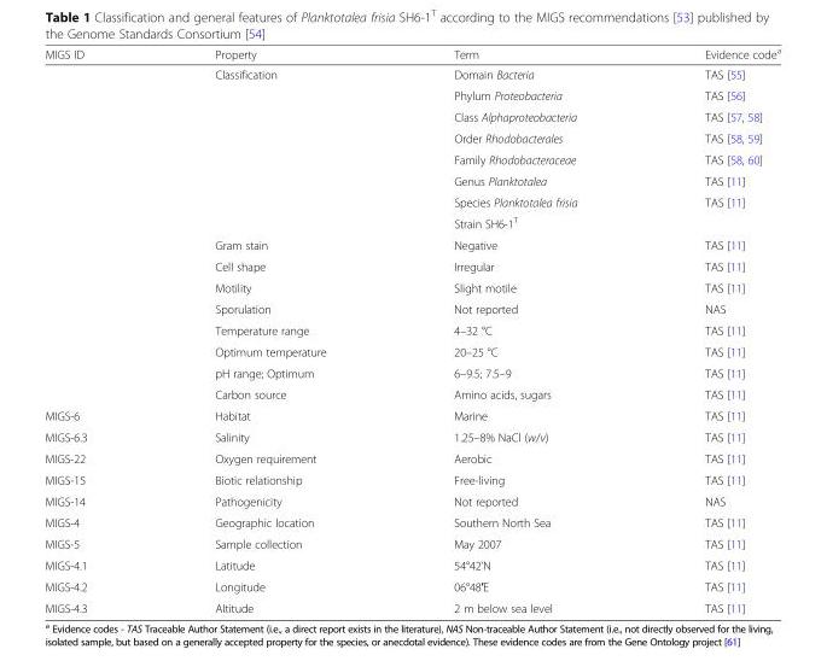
<table><thead><tr><td>MIGS ID</td><td>Property</td><td>Term</td><td>Evidence code<sup>a</sup></td></tr></thead><tbody><tr><td></td><td>Classification</td><td>Domain Bacteria</td><td>TAS [55]</td></tr><tr><td></td><td></td><td>Phylum Proteobacteria</td><td>TAS [56]</td></tr><tr><td></td><td></td><td>Class Alphaproteobacteria</td><td>TAS [57, 58]</td></tr><tr><td></td><td></td><td>Order Rhodobacterales</td><td>TAS [58, 59]</td></tr><tr><td></td><td></td><td>Family Rhodobacteraceae</td><td>TAS [58, 60]</td></tr><tr><td></td><td></td><td>Genus Planktotalea</td><td>TAS [11]</td></tr><tr><td></td><td></td><td>Species Planktotalea frisia</td><td>TAS [11]</td></tr><tr><td></td><td></td><td>Strain SH6-1<sup>T</sup></td><td></td></tr><tr><td></td><td>Gram stain</td><td>Negative</td><td>TAS [11]</td></tr><tr><td></td><td>Cell shape</td><td>Irregular</td><td>TAS [11]</td></tr><tr><td></td><td>Motility</td><td>Slight motile</td><td>TAS [11]</td></tr><tr><td></td><td>Sporulation</td><td>Not reported</td><td>NAS</td></tr><tr><td></td><td>Temperature range</td><td>4–32 °C</td><td>TAS [11]</td></tr><tr><td></td><td>Optimum temperature</td><td>20–25 °C</td><td>TAS [11]</td></tr><tr><td></td><td>pH range; Optimum</td><td>6–9.5; 7.5–9</td><td>TAS [11]</td></tr><tr><td></td><td>Carbon source</td><td>Amino acids, sugars</td><td>TAS [11]</td></tr><tr><td>MIGS-6</td><td>Habitat</td><td>Marine</td><td>TAS [11]</td></tr><tr><td>MIGS-6.3</td><td>Salinity</td><td>1.25–8% NaCl (w/v)</td><td>TAS [11]</td></tr><tr><td>MIGS-22</td><td>Oxygen requirement</td><td>Aerobic</td><td>TAS [11]</td></tr><tr><td>MIGS-15</td><td>Biotic relationship</td><td>Free-living</td><td>TAS [11]</td></tr><tr><td>MIGS-14</td><td>Pathogenicity</td><td>Not reported</td><td>NAS</td></tr><tr><td>MIGS-4</td><td>Geographic location</td><td>Southern North Sea</td><td>TAS [11]</td></tr><tr><td>MIGS-5</td><td>Sample collection</td><td>May 2007</td><td>TAS [11]</td></tr><tr><td>MIGS-4.1</td><td>Latitude</td><td>54°42’N</td><td>TAS [11]</td></tr><tr><td>MIGS-4.2</td><td>Longitude</td><td>06°48′E</td><td>TAS [11]</td></tr><tr><td>MIGS-4.3</td><td>Altitude</td><td>2 m below sea level</td><td>TAS [11]</td></tr></tbody></table>